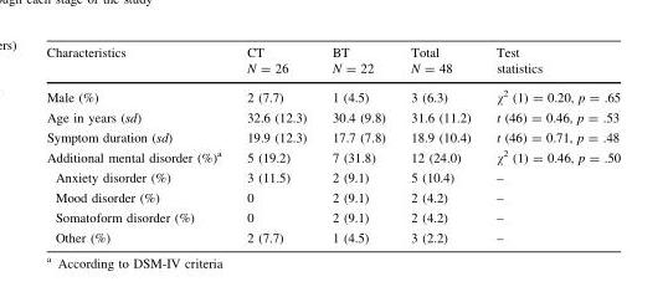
<table><thead><tr><td>Characteristics</td><td>CT N = 26</td><td>BT N = 22</td><td>Total N = 48</td><td>Test statistics</td></tr></thead><tbody><tr><td>Male (%)</td><td>2 (7.7)</td><td>1 (4.5)</td><td>3 (6.3)</td><td>χ<sup>2</sup> (1) = 0.20, p = .65</td></tr><tr><td>Age in years (sd)</td><td>32.6 (12.3)</td><td>30.4 (9.8)</td><td>31.6 (11.2)</td><td>t (46) = 0.46, p = .53</td></tr><tr><td>Symptom duration (sd)</td><td>19.9 (12.3)</td><td>17.7 (7.8)</td><td>18.9 (10.4)</td><td>t (46) = 0.71, p = .48</td></tr><tr><td>Additional mental disorder (%)<sup>a</sup></td><td>5 (19.2)</td><td>7 (31.8)</td><td>12 (24.0)</td><td>χ<sup>2</sup> (1) = 0.46, p = .50</td></tr><tr><td>Anxiety disorder (%)</td><td>3 (11.5)</td><td>2 (9.1)</td><td>5 (10.4)</td><td>–</td></tr><tr><td>Mood disorder (%)</td><td>0</td><td>2 (9.1)</td><td>2 (4.2)</td><td>–</td></tr><tr><td>Somatoform disorder (%)</td><td>0</td><td>2 (9.1)</td><td>2 (4.2)</td><td>–</td></tr><tr><td>Other (%)</td><td>2 (7.7)</td><td>1 (4.5)</td><td>3 (2.2)</td><td>–</td></tr></tbody></table>